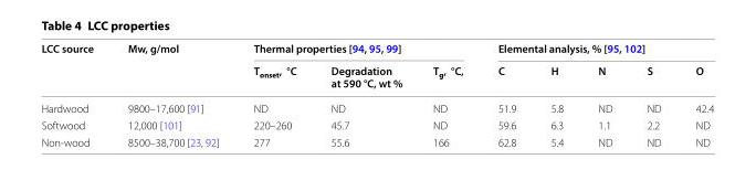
<table><thead><tr><td rowspan="2">LCC source</td><td rowspan="2">Mw, g/mol</td><td colspan="3">Thermal properties [94, 95, 99]</td><td colspan="5">Elemental analysis, % [95, 102]</td></tr><tr><td>T<sub>onset</sub>, °C</td><td>Degradation at 590 °C, wt %</td><td>T<sub>g</sub>, °C,</td><td>C</td><td>H</td><td>N</td><td>S</td><td>O</td></tr></thead><tbody><tr><td>Hardwood</td><td>9800–17,600 [91]</td><td>ND</td><td>ND</td><td>ND</td><td>51.9</td><td>5.8</td><td>ND</td><td>ND</td><td>42.4</td></tr><tr><td>Softwood</td><td>12,000 [101]</td><td>220–260</td><td>45.7</td><td>ND</td><td>59.6</td><td>6.3</td><td>1.1</td><td>2.2</td><td>ND</td></tr><tr><td>Non-wood</td><td>8500–38,700 [23, 92]</td><td>277</td><td>55.6</td><td>166</td><td>62.8</td><td>5.4</td><td>ND</td><td>ND</td><td>ND</td></tr></tbody></table>